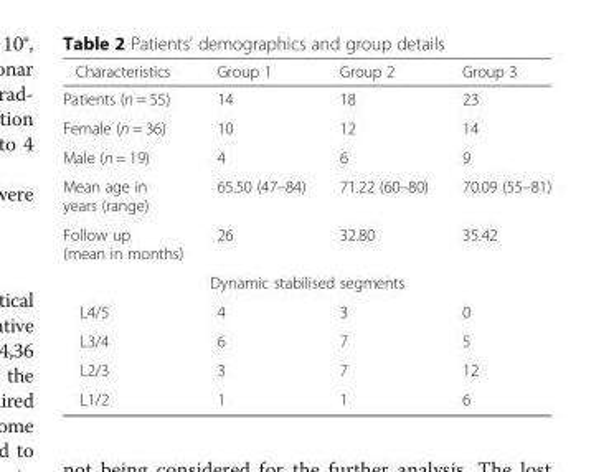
<table><thead><tr><td>Characteristics</td><td>Group 1</td><td>Group 2</td><td>Group 3</td></tr></thead><tbody><tr><td>Patients (n = 55)</td><td>14</td><td>18</td><td>23</td></tr><tr><td>Female (n = 36)</td><td>10</td><td>12</td><td>14</td></tr><tr><td>Male (n = 19)</td><td>4</td><td>6</td><td>9</td></tr><tr><td>Mean age in years (range)</td><td>65.50 (47–84)</td><td>71.22 (60–80)</td><td>70.09 (55–81)</td></tr><tr><td>Follow up (mean in months)</td><td>26</td><td>32.80</td><td>35.42</td></tr><tr><td colspan="4">Dynamic stabilised segments</td></tr><tr><td>L4/5</td><td>4</td><td>3</td><td>0</td></tr><tr><td>L3/4</td><td>6</td><td>7</td><td>5</td></tr><tr><td>L2/3</td><td>3</td><td>7</td><td>12</td></tr><tr><td>L1/2</td><td>1</td><td>1</td><td>6</td></tr></tbody></table>